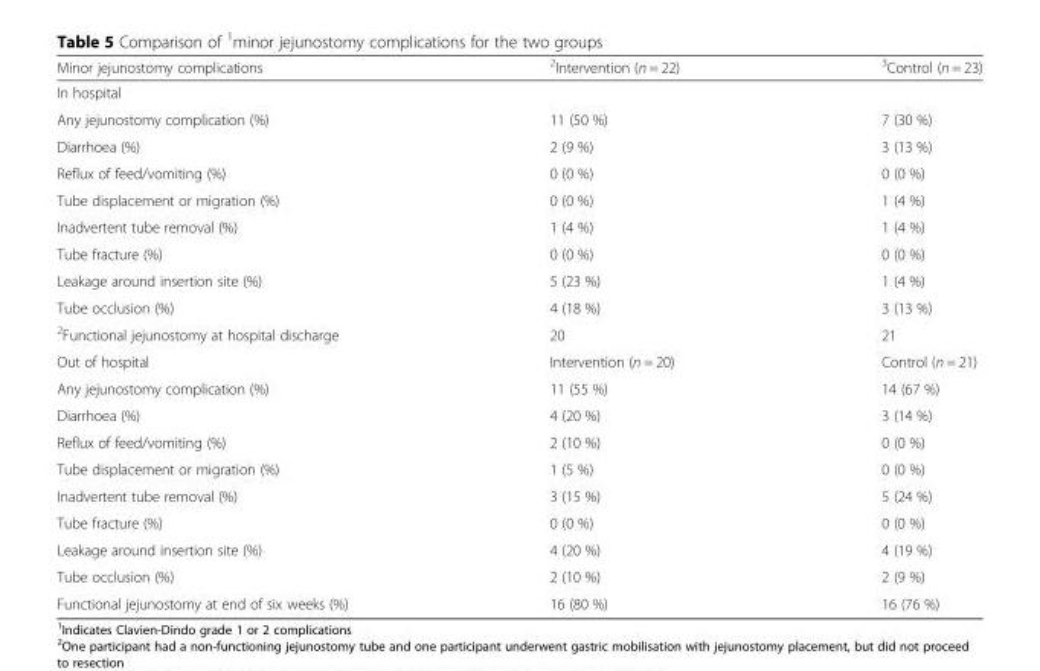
<table><thead><tr><td>Minor jejunostomy complications</td><td><sup>2</sup>Intervention (n = 22)</td><td><sup>3</sup>Control (n = 23)</td></tr></thead><tbody><tr><td colspan="3">In hospital</td></tr><tr><td>Any jejunostomy complication (%)</td><td>11 (50 %)</td><td>7 (30 %)</td></tr><tr><td>Diarrhoea (%)</td><td>2 (9 %)</td><td>3 (13 %)</td></tr><tr><td>Reflux of feed/vomiting (%)</td><td>0 (0 %)</td><td>0 (0 %)</td></tr><tr><td>Tube displacement or migration (%)</td><td>0 (0 %)</td><td>1 (4 %)</td></tr><tr><td>Inadvertent tube removal (%)</td><td>1 (4 %)</td><td>1 (4 %)</td></tr><tr><td>Tube fracture (%)</td><td>0 (0 %)</td><td>0 (0 %)</td></tr><tr><td>Leakage around insertion site (%)</td><td>5 (23 %)</td><td>1 (4 %)</td></tr><tr><td>Tube occlusion (%)</td><td>4 (18 %)</td><td>3 (13 %)</td></tr><tr><td><sup>2</sup>Functional jejunostomy at hospital discharge</td><td>20</td><td>21</td></tr><tr><td>Out of hospital</td><td>Intervention (n = 20)</td><td>Control (n = 21)</td></tr><tr><td>Any jejunostomy complication (%)</td><td>11 (55 %)</td><td>14 (67 %)</td></tr><tr><td>Diarrhoea (%)</td><td>4 (20 %)</td><td>3 (14 %)</td></tr><tr><td>Reflux of feed/vomiting (%)</td><td>2 (10 %)</td><td>0 (0 %)</td></tr><tr><td>Tube displacement or migration (%)</td><td>1 (5 %)</td><td>0 (0 %)</td></tr><tr><td>Inadvertent tube removal (%)</td><td>3 (15 %)</td><td>5 (24 %)</td></tr><tr><td>Tube fracture (%)</td><td>0 (0 %)</td><td>0 (0 %)</td></tr><tr><td>Leakage around insertion site (%)</td><td>4 (20 %)</td><td>4 (19 %)</td></tr><tr><td>Tube occlusion (%)</td><td>2 (10 %)</td><td>2 (9 %)</td></tr><tr><td>Functional jejunostomy at end of six weeks (%)</td><td>16 (80 %)</td><td>16 (76 %)</td></tr></tbody></table>